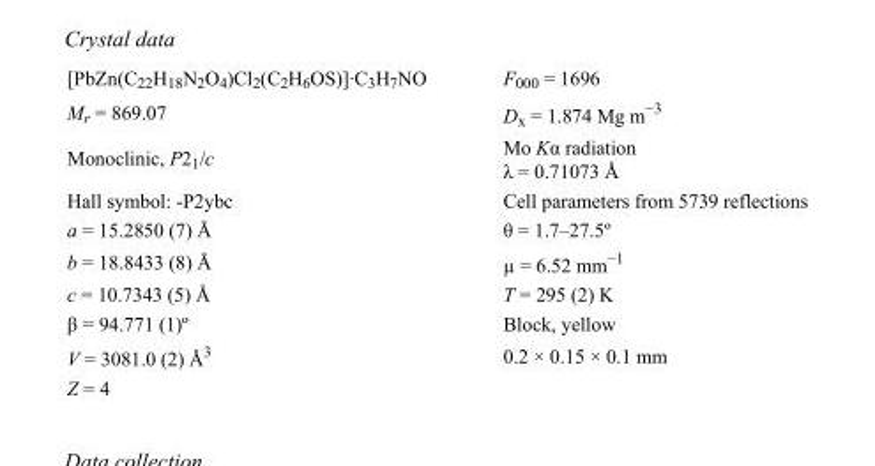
<table><tbody><tr><td>[PbZn(C<sub>22</sub>H<sub>18</sub>N<sub>2</sub>O<sub>4</sub>)Cl<sub>2</sub>(C<sub>2</sub>H<sub>6</sub>OS)]·C<sub>3</sub>H<sub>7</sub>NO</td><td>F000 = 1696</td></tr><tr><td>M<sub>r</sub> = 869.07</td><td>D<sub>x</sub> = 1.874 Mg m<sup>−3</sup></td></tr><tr><td>Monoclinic, P2<sub>1</sub>/c</td><td>Mo Kα radiation λ = 0.71073 Å</td></tr><tr><td>Hall symbol: -P2ybc</td><td>Cell parameters from 5739 reflections</td></tr><tr><td>a = 15.2850 (7) Å</td><td>θ = 1.7–27.5º</td></tr><tr><td>b = 18.8433 (8) Å</td><td>µ = 6.52 mm<sup>−1</sup></td></tr><tr><td>c = 10.7343 (5) Å</td><td>T = 295 (2) K</td></tr><tr><td>β = 94.771 (1)º</td><td>Block, yellow</td></tr><tr><td>V = 3081.0 (2) Å<sup>3</sup></td><td>0.2 × 0.15 × 0.1 mm</td></tr><tr><td>Z = 4</td><td></td></tr></tbody></table>